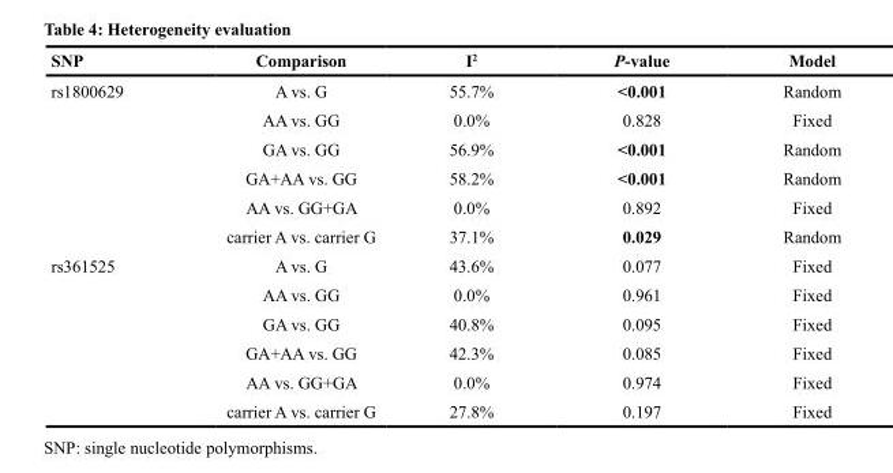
<table><thead><tr><td>SNP</td><td>Comparison</td><td>I<sup>2</sup></td><td>P-value</td><td>Model</td></tr></thead><tbody><tr><td rowspan="6">rs1800629</td><td>A vs. G</td><td>55.7%</td><td>&lt;0.001</td><td>Random</td></tr><tr><td>AA vs. GG</td><td>0.0%</td><td>0.828</td><td>Fixed</td></tr><tr><td>GA vs. GG</td><td>56.9%</td><td>&lt;0.001</td><td>Random</td></tr><tr><td>GA+AA vs. GG</td><td>58.2%</td><td>&lt;0.001</td><td>Random</td></tr><tr><td>AA vs. GG+GA</td><td>0.0%</td><td>0.892</td><td>Fixed</td></tr><tr><td>carrier A vs. carrier G</td><td>37.1%</td><td>0.029</td><td>Random</td></tr><tr><td rowspan="6">rs361525</td><td>A vs. G</td><td>43.6%</td><td>0.077</td><td>Fixed</td></tr><tr><td>AA vs. GG</td><td>0.0%</td><td>0.961</td><td>Fixed</td></tr><tr><td>GA vs. GG</td><td>40.8%</td><td>0.095</td><td>Fixed</td></tr><tr><td>GA+AA vs. GG</td><td>42.3%</td><td>0.085</td><td>Fixed</td></tr><tr><td>AA vs. GG+GA</td><td>0.0%</td><td>0.974</td><td>Fixed</td></tr><tr><td>carrier A vs. carrier G</td><td>27.8%</td><td>0.197</td><td>Fixed</td></tr></tbody></table>